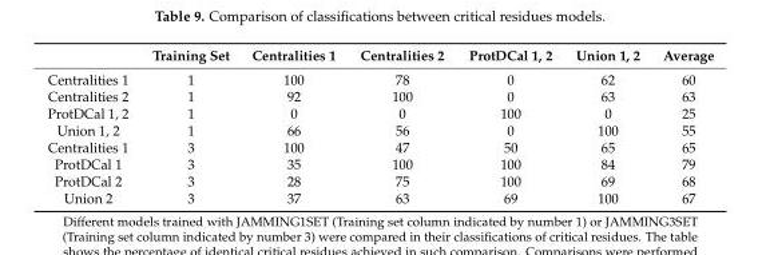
<table><thead><tr><td></td><td>Training Set</td><td>Centralities 1</td><td>Centralities 2</td><td>ProtDCal 1, 2</td><td>Union 1, 2</td><td>Average</td></tr></thead><tbody><tr><td>Centralities 1</td><td>1</td><td>100</td><td>78</td><td>0</td><td>62</td><td>60</td></tr><tr><td>Centralities 2</td><td>1</td><td>92</td><td>100</td><td>0</td><td>63</td><td>63</td></tr><tr><td>ProtDCal 1, 2</td><td>1</td><td>0</td><td>0</td><td>100</td><td>0</td><td>25</td></tr><tr><td>Union 1, 2</td><td>1</td><td>66</td><td>56</td><td>0</td><td>100</td><td>55</td></tr><tr><td>Centralities 1</td><td>3</td><td>100</td><td>47</td><td>50</td><td>65</td><td>65</td></tr><tr><td>ProtDCal 1</td><td>3</td><td>35</td><td>100</td><td>100</td><td>84</td><td>79</td></tr><tr><td>ProtDCal 2</td><td>3</td><td>28</td><td>75</td><td>100</td><td>69</td><td>68</td></tr><tr><td>Union 2</td><td>3</td><td>37</td><td>63</td><td>69</td><td>100</td><td>67</td></tr></tbody></table>